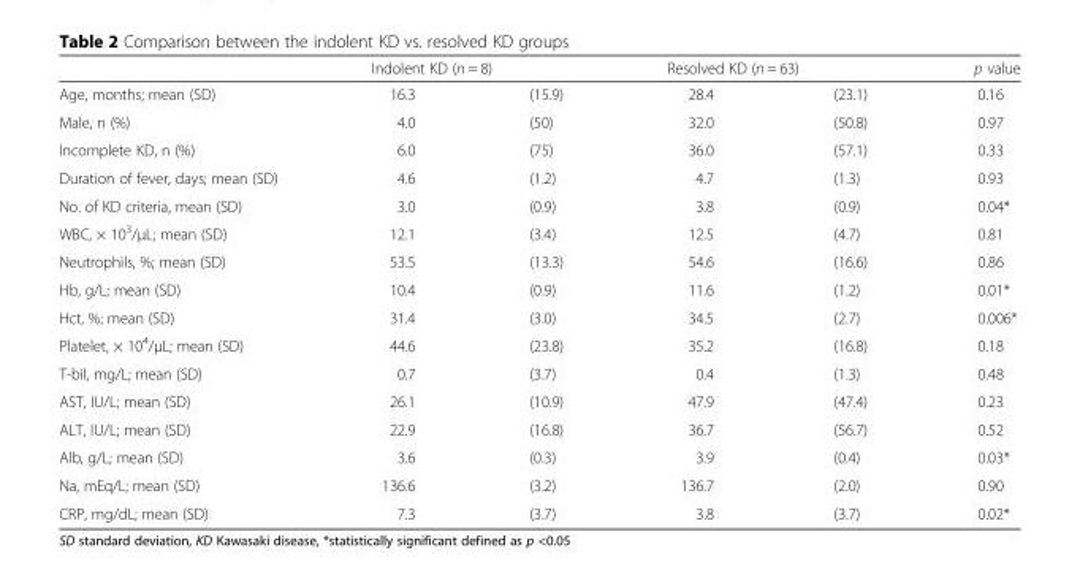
<table><thead><tr><td rowspan="2">Age, months; mean (SD)</td><td colspan="2">Indolent KD (n = 8)</td><td colspan="2">Resolved KD (n = 63)</td><td rowspan="2">p value 0.16</td></tr><tr><td>16.3</td><td>(15.9)</td><td>28.4</td><td>(23.1)</td></tr></thead><tbody><tr><td>Male, n (%)</td><td>4.0</td><td>(50)</td><td>32.0</td><td>(50.8)</td><td>0.97</td></tr><tr><td>Incomplete KD, n (%)</td><td>6.0</td><td>(75)</td><td>36.0</td><td>(57.1)</td><td>0.33</td></tr><tr><td>Duration of fever, days; mean (SD)</td><td>4.6</td><td>(1.2)</td><td>4.7</td><td>(1.3)</td><td>0.93</td></tr><tr><td>No. of KD criteria, mean (SD)</td><td>3.0</td><td>(0.9)</td><td>3.8</td><td>(0.9)</td><td>0.04*</td></tr><tr><td>WBC, × 10<sup>3</sup>/μL; mean (SD)</td><td>12.1</td><td>(3.4)</td><td>12.5</td><td>(4.7)</td><td>0.81</td></tr><tr><td>Neutrophils, %; mean (SD)</td><td>53.5</td><td>(13.3)</td><td>54.6</td><td>(16.6)</td><td>0.86</td></tr><tr><td>Hb, g/L; mean (SD)</td><td>10.4</td><td>(0.9)</td><td>11.6</td><td>(1.2)</td><td>0.01*</td></tr><tr><td>Hct, %; mean (SD)</td><td>31.4</td><td>(3.0)</td><td>34.5</td><td>(2.7)</td><td>0.006*</td></tr><tr><td>Platelet, × 10<sup>4</sup>/μL; mean (SD)</td><td>44.6</td><td>(23.8)</td><td>35.2</td><td>(16.8)</td><td>0.18</td></tr><tr><td>T-bil, mg/L; mean (SD)</td><td>0.7</td><td>(3.7)</td><td>0.4</td><td>(1.3)</td><td>0.48</td></tr><tr><td>AST, IU/L; mean (SD)</td><td>26.1</td><td>(10.9)</td><td>47.9</td><td>(47.4)</td><td>0.23</td></tr><tr><td>ALT, IU/L; mean (SD)</td><td>22.9</td><td>(16.8)</td><td>36.7</td><td>(56.7)</td><td>0.52</td></tr><tr><td>Alb, g/L; mean (SD)</td><td>3.6</td><td>(0.3)</td><td>3.9</td><td>(0.4)</td><td>0.03*</td></tr><tr><td>Na, mEq/L; mean (SD)</td><td>136.6</td><td>(3.2)</td><td>136.7</td><td>(2.0)</td><td>0.90</td></tr><tr><td>CRP, mg/dL; mean (SD)</td><td>7.3</td><td>(3.7)</td><td>3.8</td><td>(3.7)</td><td>0.02*</td></tr></tbody></table>